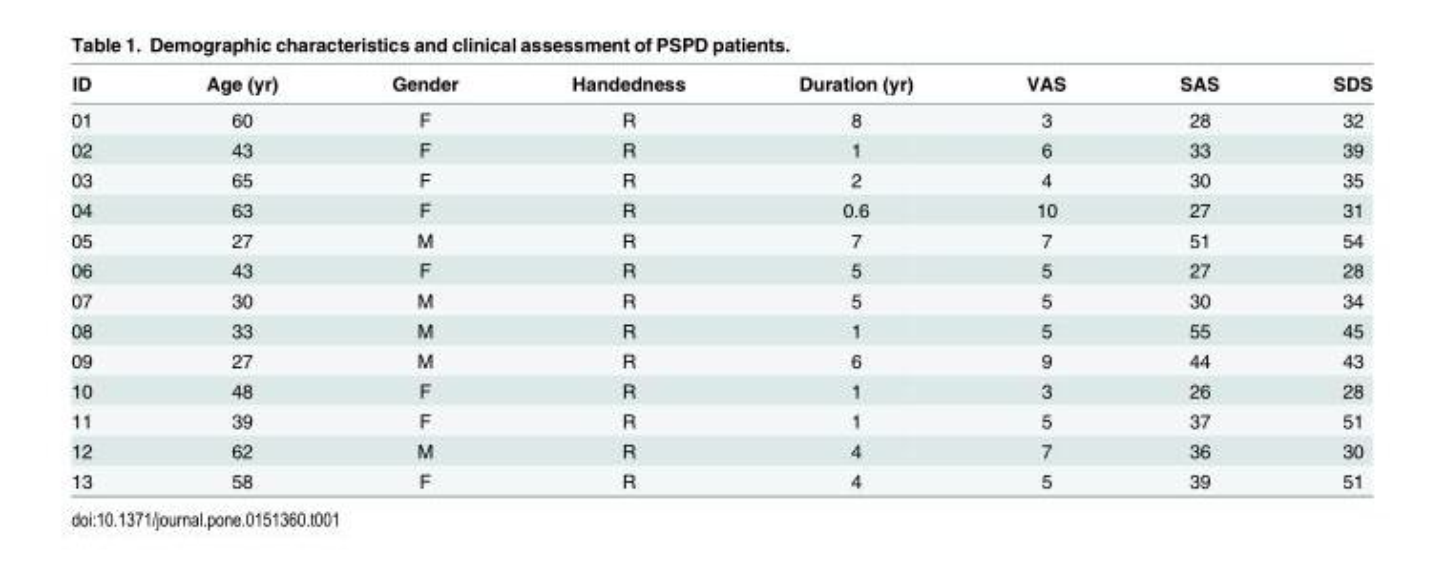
<table><thead><tr><td>ID</td><td>Age (yr)</td><td>Gender</td><td>Handedness</td><td>Duration (yr)</td><td>VAS</td><td>SAS</td><td>SDS</td></tr></thead><tbody><tr><td>01</td><td>60</td><td>F</td><td>R</td><td>8</td><td>3</td><td>28</td><td>32</td></tr><tr><td>02</td><td>43</td><td>F</td><td>R</td><td>1</td><td>6</td><td>33</td><td>39</td></tr><tr><td>03</td><td>65</td><td>F</td><td>R</td><td>2</td><td>4</td><td>30</td><td>35</td></tr><tr><td>04</td><td>63</td><td>F</td><td>R</td><td>0.6</td><td>10</td><td>27</td><td>31</td></tr><tr><td>05</td><td>27</td><td>M</td><td>R</td><td>7</td><td>7</td><td>51</td><td>54</td></tr><tr><td>06</td><td>43</td><td>F</td><td>R</td><td>5</td><td>5</td><td>27</td><td>28</td></tr><tr><td>07</td><td>30</td><td>M</td><td>R</td><td>5</td><td>5</td><td>30</td><td>34</td></tr><tr><td>08</td><td>33</td><td>M</td><td>R</td><td>1</td><td>5</td><td>55</td><td>45</td></tr><tr><td>09</td><td>27</td><td>M</td><td>R</td><td>6</td><td>9</td><td>44</td><td>43</td></tr><tr><td>10</td><td>48</td><td>F</td><td>R</td><td>1</td><td>3</td><td>26</td><td>28</td></tr><tr><td>11</td><td>39</td><td>F</td><td>R</td><td>1</td><td>5</td><td>37</td><td>51</td></tr><tr><td>12</td><td>62</td><td>M</td><td>R</td><td>4</td><td>7</td><td>36</td><td>30</td></tr><tr><td>13</td><td>58</td><td>F</td><td>R</td><td>4</td><td>5</td><td>39</td><td>51</td></tr></tbody></table>